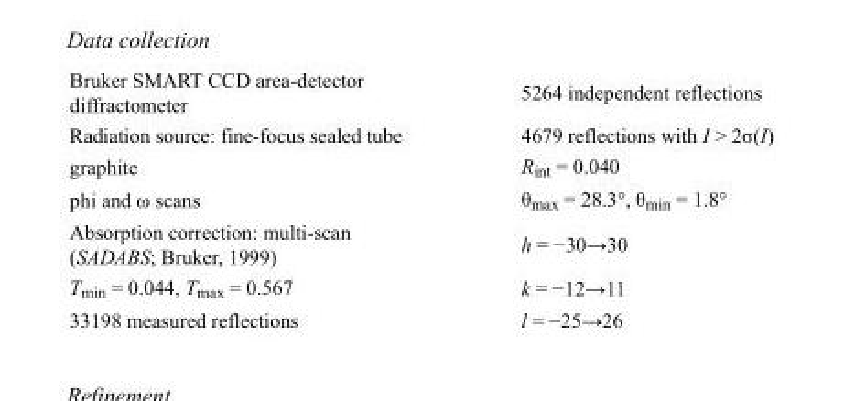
<table><tbody><tr><td>Bruker SMART CCD area-detector diffractometer</td><td>5264 independent reflections</td></tr><tr><td>Radiation source: fine-focus sealed tube</td><td>4679 reflections with I &gt; 2σ(I)</td></tr><tr><td>graphite</td><td>R<sub>int</sub> = 0.040</td></tr><tr><td>phi and ω scans</td><td>θ<sub>max</sub> = 28.3°, θ<sub>min</sub> = 1.8°</td></tr><tr><td>Absorption correction: multi-scan (SADABS; Bruker, 1999)</td><td>h = −30→30</td></tr><tr><td>T<sub>min</sub> = 0.044, T<sub>max</sub> = 0.567</td><td>k = −12→11</td></tr><tr><td>33198 measured reflections</td><td>l = −25→26</td></tr></tbody></table>